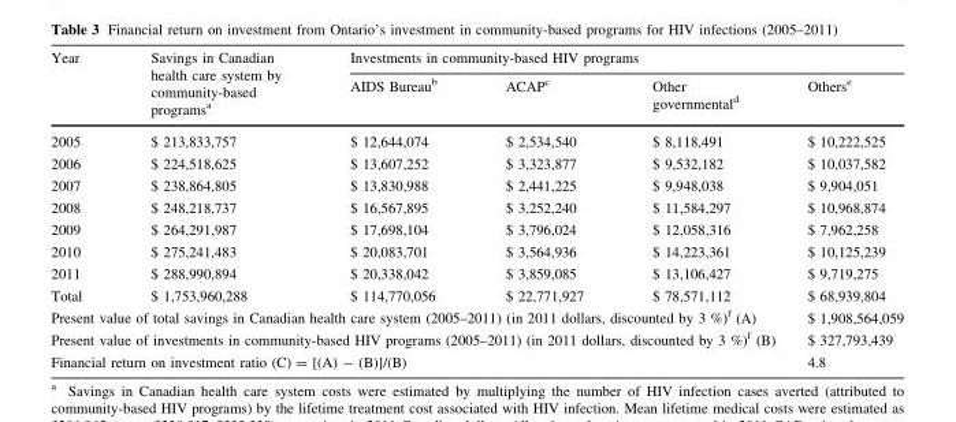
<table><thead><tr><td rowspan="2">Year</td><td rowspan="2">Savings in Canadian health care system by community-based programs<sup>a</sup></td><td colspan="4">Investments in community-based HIV programs</td></tr><tr><td>AIDS Bureau<sup>b</sup></td><td>ACAP<sup>c</sup></td><td>Other governmental<sup>d</sup></td><td>Others<sup>e</sup></td></tr></thead><tbody><tr><td>2005</td><td>$ 213,833,757</td><td>$ 12,644,074</td><td>$ 2,534,540</td><td>$ 8,118,491</td><td>$ 10,222,525</td></tr><tr><td>2006</td><td>$ 224,518,625</td><td>$ 13,607,252</td><td>$ 3,323,877</td><td>$ 9,532,182</td><td>$ 10,037,582</td></tr><tr><td>2007</td><td>$ 238,864,805</td><td>$ 13,830,988</td><td>$ 2,441,225</td><td>$ 9,948,038</td><td>$ 9,904,051</td></tr><tr><td>2008</td><td>$ 248,218,737</td><td>$ 16,567,895</td><td>$ 3,252,240</td><td>$ 11,584,297</td><td>$ 10,968,874</td></tr><tr><td>2009</td><td>$ 264,291,987</td><td>$ 17,698,104</td><td>$ 3,796,024</td><td>$ 12,058,316</td><td>$ 7,962,258</td></tr><tr><td>2010</td><td>$ 275,241,483</td><td>$ 20,083,701</td><td>$ 3,564,936</td><td>$ 14,223,361</td><td>$ 10,125,239</td></tr><tr><td>2011</td><td>$ 288,990,894</td><td>$ 20,338,042</td><td>$ 3,859,085</td><td>$ 13,106,427</td><td>$ 9,719,275</td></tr><tr><td>Total</td><td>$ 1,753,960,288</td><td>$ 114,770,056</td><td>$ 22,771,927</td><td>$ 78,571,112</td><td>$ 68,939,804</td></tr><tr><td colspan="5">Present value of total savings in Canadian health care system (2005–2011) (in 2011 dollars, discounted by 3 %)<sup>f</sup> (A)</td><td>$ 1,908,564,059</td></tr><tr><td colspan="5">Present value of investments in community-based HIV programs (2005–2011) (in 2011 dollars, discounted by 3 %)<sup>f</sup> (B)</td><td>$ 327,793,439</td></tr><tr><td colspan="5">Financial return on investment ratio (C) = [(A) - (B)]/(B)</td><td>4.8</td></tr></tbody></table>